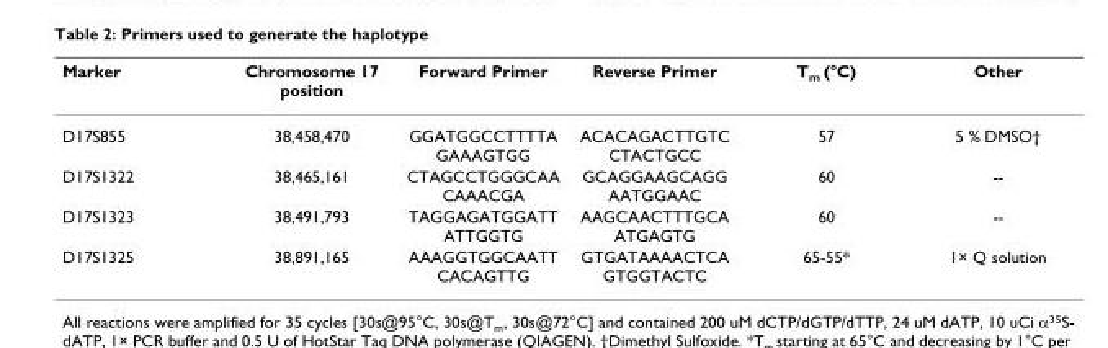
<table><thead><tr><td>Marker</td><td>Chromosome 17 position</td><td>Forward Primer</td><td>Reverse Primer</td><td>T<sub>m</sub> (°C)</td><td>Other</td></tr></thead><tbody><tr><td>D17S855</td><td>38,458,470</td><td>GGATGGCCTTTTA GAAAGTGG</td><td>ACACAGACTTGTC CTACTGCC</td><td>57</td><td>5 % DMSO†</td></tr><tr><td>D17S1322</td><td>38,465,161</td><td>CTAGCCTGGGCAA CAAACGA</td><td>GCAGGAAGCAGG AATGGAAC</td><td>60</td><td>--</td></tr><tr><td>D17S1323</td><td>38,491,793</td><td>TAGGAGATGGATT ATTGGTG</td><td>AAGCAACTTTGCA ATGAGTG</td><td>60</td><td>--</td></tr><tr><td>D17S1325</td><td>38,891,165</td><td>AAAGGTGGCAATT CACAGTTG</td><td>GTGATAAAACTCA GTGGTACTC</td><td>65-55*</td><td>1× Q solution</td></tr></tbody></table>